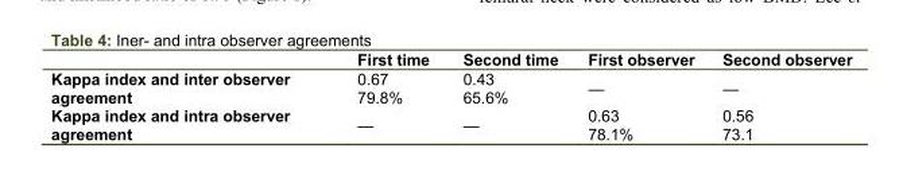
<table><thead><tr><td></td><td>First time</td><td>Second time</td><td>First observer</td><td>Second observer</td></tr></thead><tbody><tr><td>Kappa index and inter observer agreement</td><td>0.67 79.8%</td><td>0.43 65.6%</td><td>—</td><td>—</td></tr><tr><td>Kappa index and intra observer agreement</td><td>—</td><td>—</td><td>0.63 78.1%</td><td>0.56 73.1</td></tr></tbody></table>